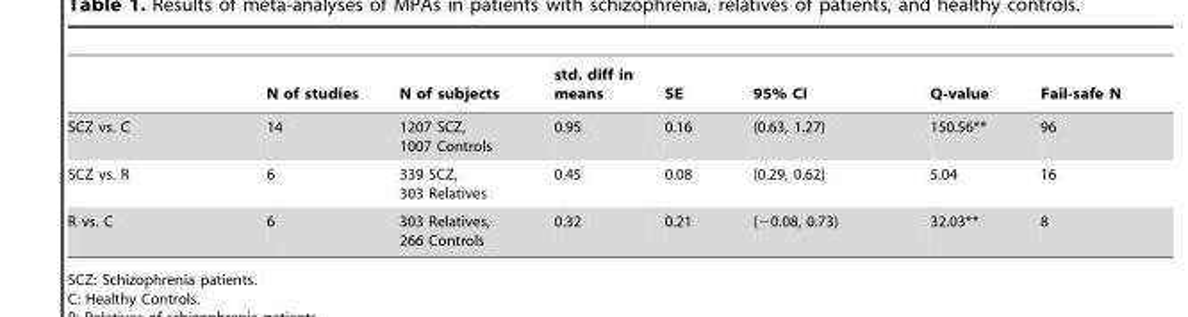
<table><thead><tr><td></td><td>N of studies</td><td>N of subjects</td><td>std. diff in means</td><td>SE</td><td>95% CI</td><td>Q-value</td><td>Fail-safe N</td></tr></thead><tbody><tr><td>SCZ vs. C</td><td>14</td><td>1207 SCZ, 1007 Controls</td><td>0.95</td><td>0.16</td><td>(0.63, 1.27)</td><td>150.56**</td><td>96</td></tr><tr><td>SCZ vs. R</td><td>6</td><td>339 SCZ, 303 Relatives</td><td>0.45</td><td>0.08</td><td>(0.29, 0.62)</td><td>5.04</td><td>16</td></tr><tr><td>R vs. C</td><td>6</td><td>303 Relatives, 266 Controls</td><td>0.32</td><td>0.21</td><td>(−0.08, 0.73)</td><td>32.03**</td><td>8</td></tr></tbody></table>